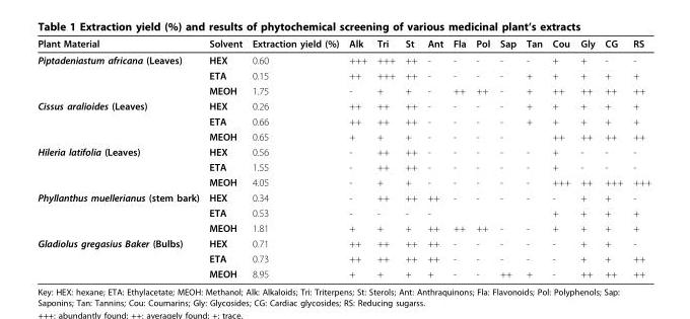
<table><thead><tr><td>Plant Material</td><td>Solvent</td><td>Extraction yield (%)</td><td>Alk</td><td>Tri</td><td>St</td><td>Ant</td><td>Fla</td><td>Pol</td><td>Sap</td><td>Tan</td><td>Cou</td><td>Gly</td><td>CG</td><td>RS</td></tr></thead><tbody><tr><td rowspan="3">Piptadeniastum africana (Leaves)</td><td>HEX</td><td>0.60</td><td>+++</td><td>+++</td><td>++</td><td>-</td><td>-</td><td>-</td><td>-</td><td>-</td><td>+</td><td>+</td><td>-</td><td>-</td></tr><tr><td>ETA</td><td>0.15</td><td>++</td><td>+++</td><td>++</td><td>-</td><td>-</td><td>-</td><td>-</td><td>+</td><td>+</td><td>+</td><td>+</td><td>+</td></tr><tr><td>MEOH</td><td>1.75</td><td>-</td><td>+</td><td>+</td><td>-</td><td>++</td><td>++</td><td>-</td><td>+</td><td>++</td><td>++</td><td>++</td><td>++</td></tr><tr><td rowspan="3">Cissus aralioides (Leaves)</td><td>HEX</td><td>0.26</td><td>++</td><td>++</td><td>++</td><td>-</td><td>-</td><td>-</td><td>-</td><td>+</td><td>+</td><td>+</td><td>+</td><td>+</td></tr><tr><td>ETA</td><td>0.66</td><td>++</td><td>++</td><td>++</td><td>-</td><td>-</td><td>-</td><td>-</td><td>+</td><td>+</td><td>+</td><td>+</td><td>+</td></tr><tr><td>MEOH</td><td>0.65</td><td>+</td><td>+</td><td>+</td><td>-</td><td>-</td><td>-</td><td>-</td><td></td><td>++</td><td>++</td><td>++</td><td>++</td></tr><tr><td rowspan="3">Hileria latifolia (Leaves)</td><td>HEX</td><td>0.56</td><td>-</td><td>++</td><td>++</td><td>-</td><td>-</td><td>-</td><td>-</td><td>-</td><td>+</td><td>-</td><td>-</td><td>-</td></tr><tr><td>ETA</td><td>1.55</td><td>-</td><td>++</td><td>++</td><td>-</td><td>-</td><td>-</td><td>-</td><td>-</td><td>+</td><td>-</td><td>-</td><td>-</td></tr><tr><td>MEOH</td><td>4.05</td><td>-</td><td>+</td><td>+</td><td>-</td><td>-</td><td>-</td><td>-</td><td>-</td><td>+++</td><td>++</td><td>+++</td><td>+++</td></tr><tr><td rowspan="3">Phyllanthus muellerianus (stem bark)</td><td>HEX</td><td>0.34</td><td>-</td><td>++</td><td>++</td><td>++</td><td>-</td><td>-</td><td>-</td><td>-</td><td>-</td><td>+</td><td>+</td><td>-</td></tr><tr><td>ETA</td><td>0.53</td><td>-</td><td>-</td><td>-</td><td>-</td><td></td><td></td><td></td><td></td><td>+</td><td>+</td><td>+</td><td>+</td></tr><tr><td>MEOH</td><td>1.81</td><td>+</td><td>+</td><td>+</td><td>++</td><td>++</td><td>++</td><td>-</td><td>-</td><td>+</td><td>+</td><td>+</td><td>+</td></tr><tr><td rowspan="3">Gladiolus gregasius Baker (Bulbs)</td><td>HEX</td><td>0.71</td><td>++</td><td>++</td><td>++</td><td>++</td><td>-</td><td>-</td><td>-</td><td>-</td><td>-</td><td>+</td><td>+</td><td>-</td></tr><tr><td>ETA</td><td>0.73</td><td>++</td><td>++</td><td>++</td><td>++</td><td>-</td><td>-</td><td>-</td><td>-</td><td>-</td><td>+</td><td>+</td><td>++</td></tr><tr><td>MEOH</td><td>8.95</td><td>+</td><td>+</td><td>+</td><td>+</td><td>-</td><td>-</td><td>++</td><td>+</td><td>-</td><td>++</td><td>++</td><td>++</td></tr></tbody></table>